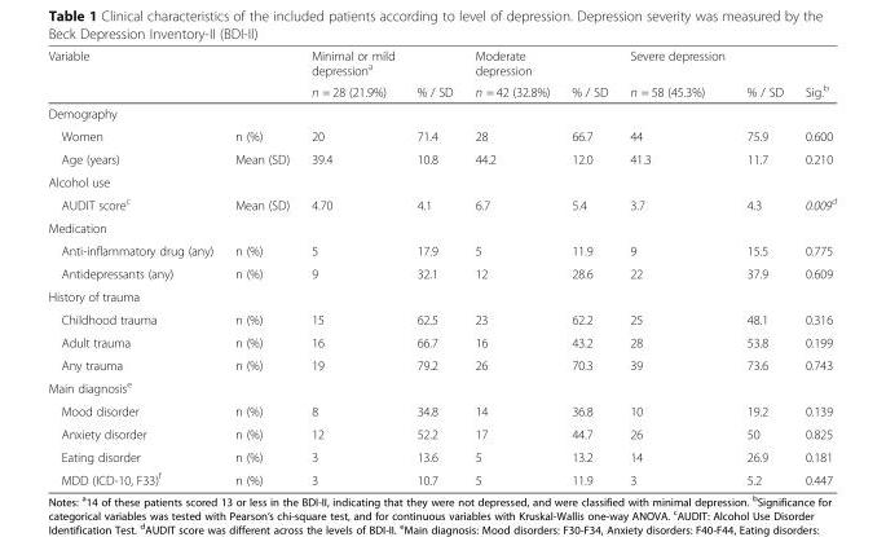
<table><thead><tr><td rowspan="2" colspan="2">Variable</td><td rowspan="2">Minimal or mild depression<sup>a</sup> n = 28 (21.9%)</td><td rowspan="2">% / SD</td><td rowspan="2">Moderate depression n = 42 (32.8%)</td><td rowspan="2">% / SD</td><td rowspan="2">Severe depression n = 58 (45.3%)</td><td rowspan="2">% / SD</td><td rowspan="2">Sig.<sup>b</sup></td></tr><tr></tr><tr><td colspan="9">Demography</td></tr><tr><td>Women</td><td>n (%)</td><td>20</td><td>71.4</td><td>28</td><td>66.7</td><td>44</td><td>75.9</td><td>0.600</td></tr></thead><tbody><tr><td>Age (years)</td><td>Mean (SD)</td><td>39.4</td><td>10.8</td><td>44.2</td><td>12.0</td><td>41.3</td><td>11.7</td><td>0.210</td></tr><tr><td colspan="9">Alcohol use</td></tr><tr><td>AUDIT score<sup>c</sup></td><td>Mean (SD)</td><td>4.70</td><td>4.1</td><td>6.7</td><td>5.4</td><td>3.7</td><td>4.3</td><td>0.009<sup>d</sup></td></tr><tr><td colspan="9">Medication</td></tr><tr><td>Anti-inflammatory drug (any)</td><td>n (%)</td><td>5</td><td>17.9</td><td>5</td><td>11.9</td><td>9</td><td>15.5</td><td>0.775</td></tr><tr><td>Antidepressants (any)</td><td>n (%)</td><td>9</td><td>32.1</td><td>12</td><td>28.6</td><td>22</td><td>37.9</td><td>0.609</td></tr><tr><td colspan="9">History of trauma</td></tr><tr><td>Childhood trauma</td><td>n (%)</td><td>15</td><td>62.5</td><td>23</td><td>62.2</td><td>25</td><td>48.1</td><td>0.316</td></tr><tr><td>Adult trauma</td><td>n (%)</td><td>16</td><td>66.7</td><td>16</td><td>43.2</td><td>28</td><td>53.8</td><td>0.199</td></tr><tr><td>Any trauma</td><td>n (%)</td><td>19</td><td>79.2</td><td>26</td><td>70.3</td><td>39</td><td>73.6</td><td>0.743</td></tr><tr><td colspan="9">Main diagnosis<sup>e</sup></td></tr><tr><td>Mood disorder</td><td>n (%)</td><td>8</td><td>34.8</td><td>14</td><td>36.8</td><td>10</td><td>19.2</td><td>0.139</td></tr><tr><td>Anxiety disorder</td><td>n (%)</td><td>12</td><td>52.2</td><td>17</td><td>44.7</td><td>26</td><td>50</td><td>0.825</td></tr><tr><td>Eating disorder</td><td>n (%)</td><td>3</td><td>13.6</td><td>5</td><td>13.2</td><td>14</td><td>26.9</td><td>0.181</td></tr><tr><td>MDD (ICD-10, F33)<sup>f</sup></td><td>n (%)</td><td>3</td><td>10.7</td><td>5</td><td>11.9</td><td>3</td><td>5.2</td><td>0.447</td></tr></tbody></table>